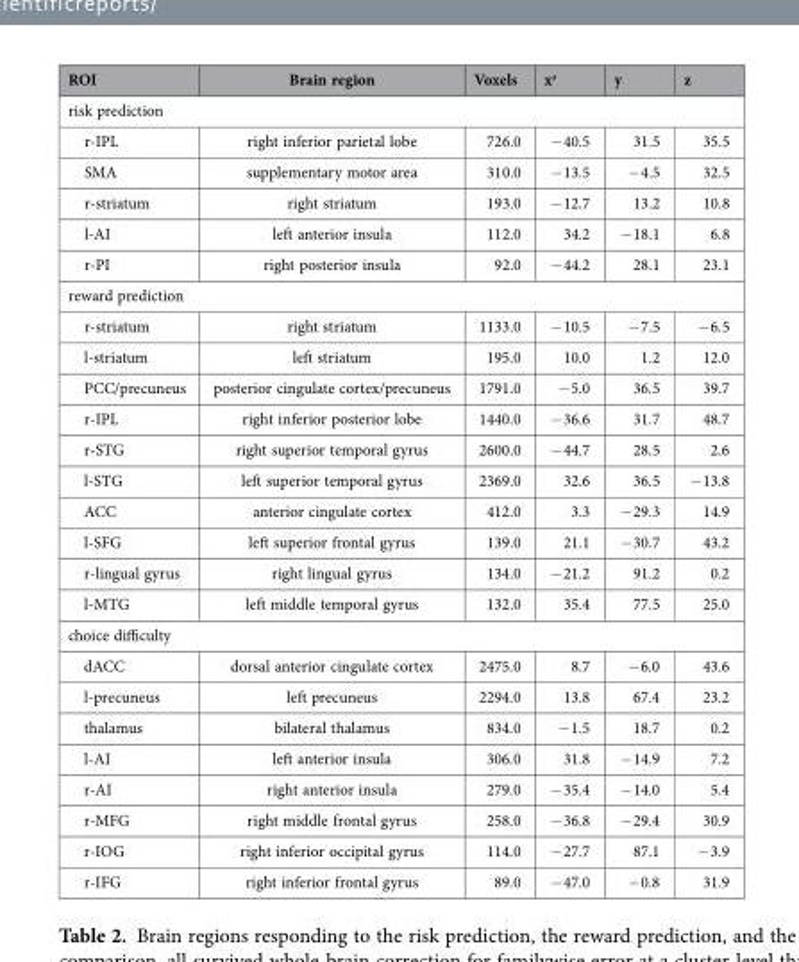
<table><thead><tr><td>ROI</td><td>Brain region</td><td>Voxels</td><td>x<sup>a</sup></td><td>y</td><td>z</td></tr></thead><tbody><tr><td colspan="6">risk prediction</td></tr><tr><td>r-IPL</td><td>right inferior parietal lobe</td><td>726.0</td><td>− 40.5</td><td>31.5</td><td>35.5</td></tr><tr><td>SMA</td><td>supplementary motor area</td><td>310.0</td><td>− 13.5</td><td>− 4.5</td><td>32.5</td></tr><tr><td>r-striatum</td><td>right striatum</td><td>193.0</td><td>− 12.7</td><td>13.2</td><td>10.8</td></tr><tr><td>l-AI</td><td>left anterior insula</td><td>112.0</td><td>34.2</td><td>− 18.1</td><td>6.8</td></tr><tr><td>r-PI</td><td>right posterior insula</td><td>92.0</td><td>− 44.2</td><td>28.1</td><td>23.1</td></tr><tr><td colspan="6">reward prediction</td></tr><tr><td>r-striatum</td><td>right striatum</td><td>1133.0</td><td>− 10.5</td><td>− 7.5</td><td>− 6.5</td></tr><tr><td>l-striatum</td><td>left striatum</td><td>195.0</td><td>10.0</td><td>1.2</td><td>12.0</td></tr><tr><td>PCC/precuneus</td><td>posterior cingulate cortex/precuneus</td><td>1791.0</td><td>− 5.0</td><td>36.5</td><td>39.7</td></tr><tr><td>r-IPL</td><td>right inferior posterior lobe</td><td>1440.0</td><td>− 36.6</td><td>31.7</td><td>48.7</td></tr><tr><td>r-STG</td><td>right superior temporal gyrus</td><td>2600.0</td><td>− 44.7</td><td>28.5</td><td>2.6</td></tr><tr><td>l-STG</td><td>left superior temporal gyrus</td><td>2369.0</td><td>32.6</td><td>36.5</td><td>− 13.8</td></tr><tr><td>ACC</td><td>anterior cingulate cortex</td><td>412.0</td><td>3.3</td><td>− 29.3</td><td>14.9</td></tr><tr><td>l-SFG</td><td>left superior frontal gyrus</td><td>139.0</td><td>21.1</td><td>− 30.7</td><td>43.2</td></tr><tr><td>r-lingual gyrus</td><td>right lingual gyrus</td><td>134.0</td><td>− 21.2</td><td>91.2</td><td>0.2</td></tr><tr><td>l-MTG</td><td>left middle temporal gyrus</td><td>132.0</td><td>35.4</td><td>77.5</td><td>25.0</td></tr><tr><td colspan="6">choice difficulty</td></tr><tr><td>dACC</td><td>dorsal anterior cingulate cortex</td><td>2475.0</td><td>8.7</td><td>− 6.0</td><td>43.6</td></tr><tr><td>l-precuneus</td><td>left precuneus</td><td>2294.0</td><td>13.8</td><td>67.4</td><td>23.2</td></tr><tr><td>thalamus</td><td>bilateral thalamus</td><td>834.0</td><td>− 1.5</td><td>18.7</td><td>0.2</td></tr><tr><td>l-AI</td><td>left anterior insula</td><td>306.0</td><td>31.8</td><td>− 14.9</td><td>7.2</td></tr><tr><td>r-AI</td><td>right anterior insula</td><td>279.0</td><td>− 35.4</td><td>− 14.0</td><td>5.4</td></tr><tr><td>r-MFG</td><td>right middle frontal gyrus</td><td>258.0</td><td>− 36.8</td><td>− 29.4</td><td>30.9</td></tr><tr><td>r-IOG</td><td>right inferior occipital gyrus</td><td>114.0</td><td>− 27.7</td><td>87.1</td><td>− 3.9</td></tr><tr><td>r-IFG</td><td>right inferior frontal gyrus</td><td>89.0</td><td>− 47.0</td><td>− 0.8</td><td>31.9</td></tr></tbody></table>